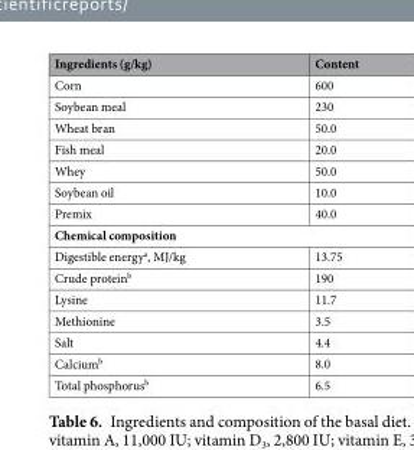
<table><thead><tr><td>Ingredients (g/kg)</td><td>Content</td></tr></thead><tbody><tr><td>Corn</td><td>600</td></tr><tr><td>Soybean meal</td><td>230</td></tr><tr><td>Wheat bran</td><td>50.0</td></tr><tr><td>Fish meal</td><td>20.0</td></tr><tr><td>Whey</td><td>50.0</td></tr><tr><td>Soybean oil</td><td>10.0</td></tr><tr><td>Premix</td><td>40.0</td></tr><tr><td colspan="2">Chemical composition</td></tr><tr><td>Digestible energy<sup>a</sup>, MJ/kg</td><td>13.75</td></tr><tr><td>Crude protein<sup>b</sup></td><td>190</td></tr><tr><td>Lysine</td><td>11.7</td></tr><tr><td>Methionine</td><td>3.5</td></tr><tr><td>Salt</td><td>4.4</td></tr><tr><td>Calcium<sup>b</sup></td><td>8.0</td></tr><tr><td>Total phosphorus<sup>b</sup></td><td>6.5</td></tr></tbody></table>